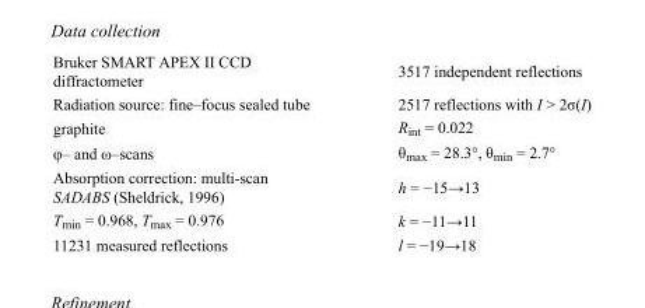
<table><tbody><tr><td>Bruker SMART APEX II CCD diffractometer</td><td>3517 independent reflections</td></tr><tr><td>Radiation source: fine–focus sealed tube</td><td>2517 reflections with I &gt; 2σ(I)</td></tr><tr><td>graphite</td><td>R<sub>int</sub> = 0.022</td></tr><tr><td>φ– and ω–scans</td><td>θ<sub>max</sub> = 28.3°, θ<sub>min</sub> = 2.7°</td></tr><tr><td>Absorption correction: multi-scan SADABS (Sheldrick, 1996)</td><td>h = −15→13</td></tr><tr><td>T<sub>min</sub> = 0.968, T<sub>max</sub> = 0.976</td><td>k = −11→11</td></tr><tr><td>11231 measured reflections</td><td>l = −19→18</td></tr></tbody></table>